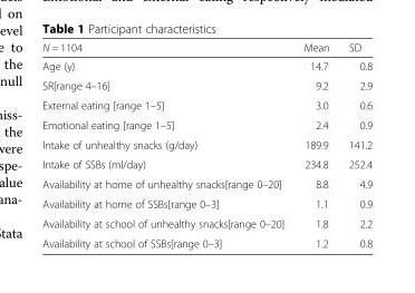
<table><thead><tr><td>N = 1104</td><td>Mean</td><td>SD</td></tr></thead><tbody><tr><td>Age (y)</td><td>14.7</td><td>0.8</td></tr><tr><td>SR[range 4–16]</td><td>9.2</td><td>2.9</td></tr><tr><td>External eating [range 1–5]</td><td>3.0</td><td>0.6</td></tr><tr><td>Emotional eating [range 1–5]</td><td>2.4</td><td>0.9</td></tr><tr><td>Intake of unhealthy snacks (g/day)</td><td>189.9</td><td>141.2</td></tr><tr><td>Intake of SSBs (ml/day)</td><td>234.8</td><td>252.4</td></tr><tr><td>Availability at home of unhealthy snacks[range 0–20]</td><td>8.8</td><td>4.9</td></tr><tr><td>Availability at home of SSBs[range 0–3]</td><td>1.1</td><td>0.9</td></tr><tr><td>Availability at school of unhealthy snacks[range 0–20]</td><td>1.8</td><td>2.2</td></tr><tr><td>Availability at school of SSBs[range 0–3]</td><td>1.2</td><td>0.8</td></tr></tbody></table>